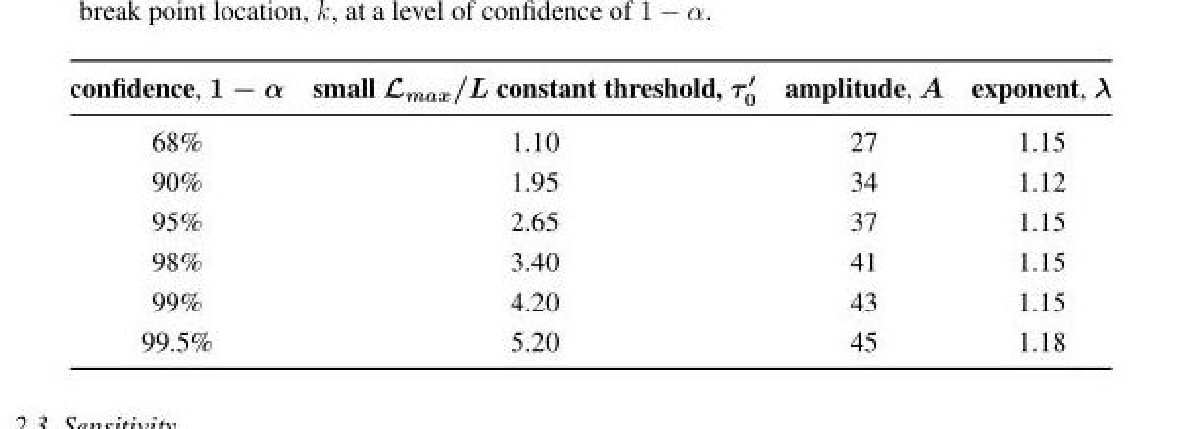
<table><thead><tr><td>confidence, 1 − α</td><td>small L<sub>max</sub>/L constant threshold, τ ′ <sub>0</sub></td><td>amplitude, A</td><td>exponent, λ</td></tr></thead><tbody><tr><td>68%</td><td>1.10</td><td>27</td><td>1.15</td></tr><tr><td>90%</td><td>1.95</td><td>34</td><td>1.12</td></tr><tr><td>95%</td><td>2.65</td><td>37</td><td>1.15</td></tr><tr><td>98%</td><td>3.40</td><td>41</td><td>1.15</td></tr><tr><td>99%</td><td>4.20</td><td>43</td><td>1.15</td></tr><tr><td>99.5%</td><td>5.20</td><td>45</td><td>1.18</td></tr></tbody></table>